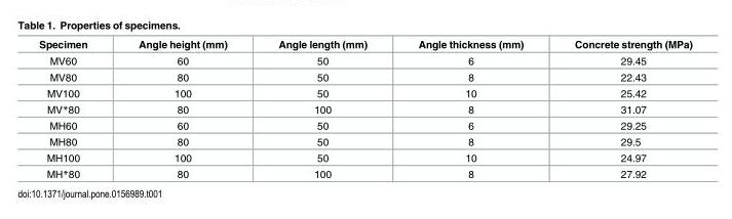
<table><thead><tr><td>Specimen</td><td>Angle height (mm)</td><td>Angle length (mm)</td><td>Angle thickness (mm)</td><td>Concrete strength (MPa)</td></tr></thead><tbody><tr><td>MV60</td><td>60</td><td>50</td><td>6</td><td>29.45</td></tr><tr><td>MV80</td><td>80</td><td>50</td><td>8</td><td>22.43</td></tr><tr><td>MV100</td><td>100</td><td>50</td><td>10</td><td>25.42</td></tr><tr><td>MV*80</td><td>80</td><td>100</td><td>8</td><td>31.07</td></tr><tr><td>MH60</td><td>60</td><td>50</td><td>6</td><td>29.25</td></tr><tr><td>MH80</td><td>80</td><td>50</td><td>8</td><td>29.5</td></tr><tr><td>MH100</td><td>100</td><td>50</td><td>10</td><td>24.97</td></tr><tr><td>MH*80</td><td>80</td><td>100</td><td>8</td><td>27.92</td></tr></tbody></table>